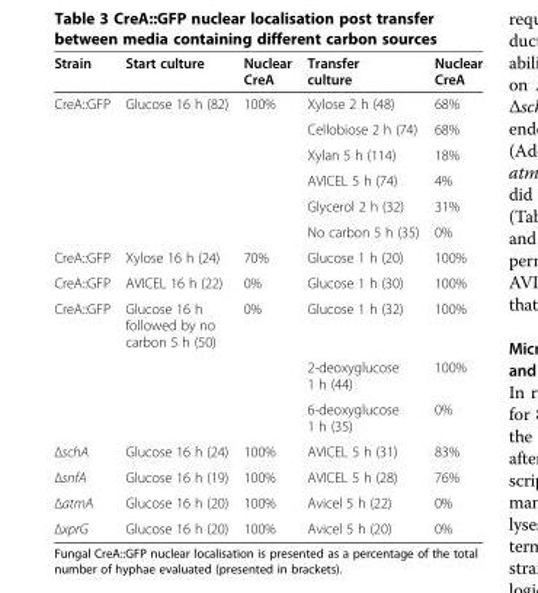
<table><thead><tr><td>Strain</td><td>Start culture</td><td>Nuclear CreA</td><td>Transfer culture</td><td>Nuclear CreA</td></tr></thead><tbody><tr><td rowspan="6">CreA::GFP</td><td>Glucose 16 h (82)</td><td>100%</td><td>Xylose 2 h (48)</td><td>68%</td></tr><tr><td></td><td></td><td>Cellobiose 2 h (74)</td><td>68%</td></tr><tr><td></td><td></td><td>Xylan 5 h (114)</td><td>18%</td></tr><tr><td></td><td></td><td>AVICEL 5 h (74)</td><td>4%</td></tr><tr><td></td><td></td><td>Glycerol 2 h (32)</td><td>31%</td></tr><tr><td></td><td></td><td>No carbon 5 h (35)</td><td>0%</td></tr><tr><td>CreA::GFP</td><td>Xylose 16 h (24)</td><td>70%</td><td>Glucose 1 h (20)</td><td>100%</td></tr><tr><td>CreA::GFP</td><td>AVICEL 16 h (22)</td><td>0%</td><td>Glucose 1 h (30)</td><td>100%</td></tr><tr><td rowspan="3">CreA::GFP</td><td>Glucose 16 h followed by no carbon 5 h (50)</td><td>0%</td><td>Glucose 1 h (32)</td><td>100%</td></tr><tr><td></td><td></td><td>2-deoxyglucose 1 h (44)</td><td>100%</td></tr><tr><td></td><td></td><td>6-deoxyglucose 1 h (35)</td><td>0%</td></tr><tr><td>ΔschA</td><td>Glucose 16 h (24)</td><td>100%</td><td>AVICEL 5 h (31)</td><td>83%</td></tr><tr><td>ΔsnfA</td><td>Glucose 16 h (19)</td><td>100%</td><td>AVICEL 5 h (28)</td><td>76%</td></tr><tr><td>ΔatmA</td><td>Glucose 16 h (20)</td><td>100%</td><td>Avicel 5 h (22)</td><td>0%</td></tr><tr><td>ΔxprG</td><td>Glucose 16 h (20)</td><td>100%</td><td>Avicel 5 h (20)</td><td>0%</td></tr></tbody></table>